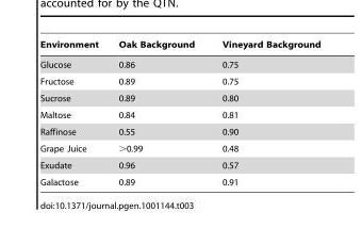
<table><thead><tr><td>Environment</td><td>Oak Background</td><td>Vineyard Background</td></tr></thead><tbody><tr><td>Glucose</td><td>0.86</td><td>0.75</td></tr><tr><td>Fructose</td><td>0.89</td><td>0.75</td></tr><tr><td>Sucrose</td><td>0.89</td><td>0.80</td></tr><tr><td>Maltose</td><td>0.84</td><td>0.81</td></tr><tr><td>Raffinose</td><td>0.55</td><td>0.90</td></tr><tr><td>Grape Juice</td><td>&gt;0.99</td><td>0.48</td></tr><tr><td>Exudate</td><td>0.96</td><td>0.57</td></tr><tr><td>Galactose</td><td>0.89</td><td>0.91</td></tr></tbody></table>